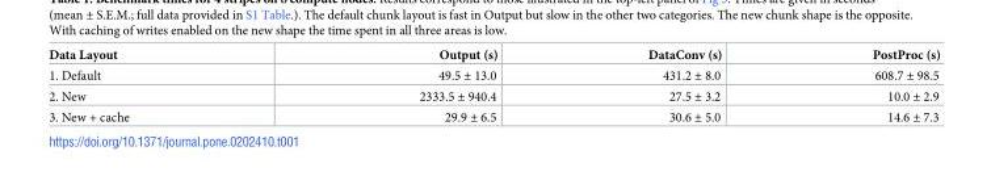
<table><thead><tr><td>Data Layout</td><td>Output (s)</td><td>DataConv (s)</td><td>PostProc (s)</td></tr></thead><tbody><tr><td>1. Default</td><td>49.5 ± 13.0</td><td>431.2 ± 8.0</td><td>608.7 ± 98.5</td></tr><tr><td>2. New</td><td>2333.5 ± 940.4</td><td>27.5 ± 3.2</td><td>10.0 ± 2.9</td></tr><tr><td>3. New + cache</td><td>29.9 ± 6.5</td><td>30.6 ± 5.0</td><td>14.6 ± 7.3</td></tr></tbody></table>